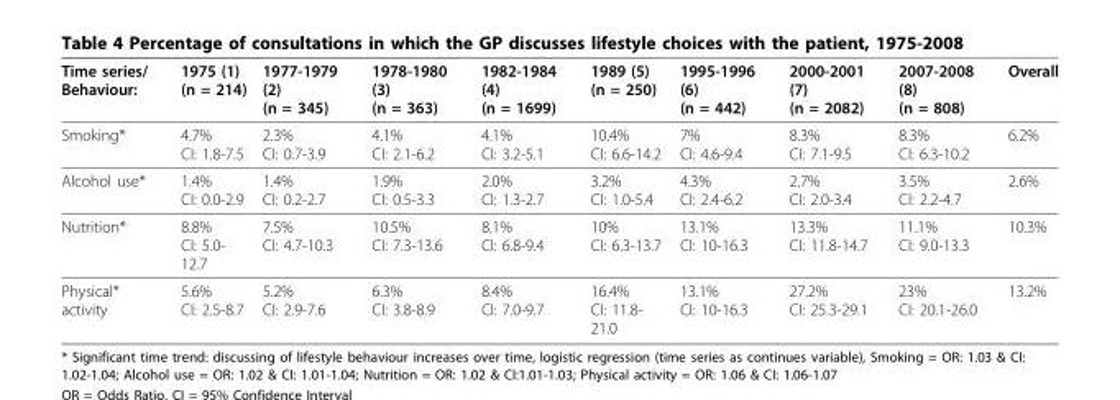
<table><thead><tr><td>Time series/ Behaviour:</td><td>1975 (1) (n = 214)</td><td>1977-1979 (2) (n = 345)</td><td>1978-1980 (3) (n = 363)</td><td>1982-1984 (4) (n = 1699)</td><td>1989 (5) (n = 250)</td><td>1995-1996 (6) (n = 442)</td><td>2000-2001 (7) (n = 2082)</td><td>2007-2008 (8) (n = 808)</td><td>Overall</td></tr></thead><tbody><tr><td>Smoking*</td><td>4.7% CI: 1.8-7.5</td><td>2.3% CI: 0.7-3.9</td><td>4.1% CI: 2.1-6.2</td><td>4.1% CI: 3.2-5.1</td><td>10.4% CI: 6.6-14.2</td><td>7% CI: 4.6-9.4</td><td>8.3% CI: 7.1-9.5</td><td>8.3% CI: 6.3-10.2</td><td>6.2%</td></tr><tr><td>Alcohol use*</td><td>1.4% CI: 0.0-2.9</td><td>1.4% CI: 0.2-2.7</td><td>1.9% CI: 0.5-3.3</td><td>2.0% CI: 1.3-2.7</td><td>3.2% CI: 1.0-5.4</td><td>4.3% CI: 2.4-6.2</td><td>2.7% CI: 2.0-3.4</td><td>3.5% CI: 2.2-4.7</td><td>2.6%</td></tr><tr><td>Nutrition*</td><td>8.8% CI: 5.0- 12.7</td><td>7.5% CI: 4.7-10.3</td><td>10.5% CI: 7.3-13.6</td><td>8.1% CI: 6.8-9.4</td><td>10% CI: 6.3-13.7</td><td>13.1% CI: 10-16.3</td><td>13.3% CI: 11.8-14.7</td><td>11.1% CI: 9.0-13.3</td><td>10.3%</td></tr><tr><td>Physical* activity</td><td>5.6% CI: 2.5-8.7</td><td>5.2% CI: 2.9-7.6</td><td>6.3% CI: 3.8-8.9</td><td>8.4% CI: 7.0-9.7</td><td>16.4% CI: 11.8- 21.0</td><td>13.1% CI: 10-16.3</td><td>27.2% CI: 25.3-29.1</td><td>23% CI: 20.1-26.0</td><td>13.2%</td></tr></tbody></table>